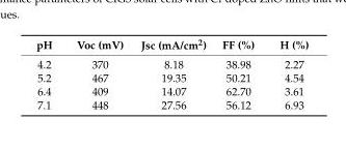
<table><thead><tr><td>pH</td><td>Voc (mV)</td><td>Jsc (mA/cm<sup>2</sup>)</td><td>FF (%)</td><td>H (%)</td></tr></thead><tbody><tr><td>4.2</td><td>370</td><td>8.18</td><td>38.98</td><td>2.27</td></tr><tr><td>5.2</td><td>467</td><td>19.35</td><td>50.21</td><td>4.54</td></tr><tr><td>6.4</td><td>409</td><td>14.07</td><td>62.70</td><td>3.61</td></tr><tr><td>7.1</td><td>448</td><td>27.56</td><td>56.12</td><td>6.93</td></tr></tbody></table>